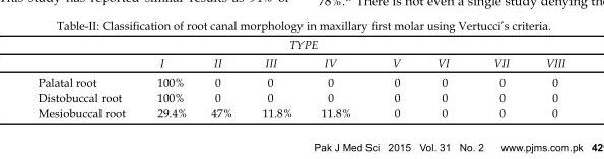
<table><thead><tr><td colspan="9">TYPE</td></tr><tr><td></td><td>I</td><td>II</td><td>III</td><td>IV</td><td>V</td><td>VI</td><td>VII</td><td>VIII</td></tr></thead><tbody><tr><td>Palatal root</td><td>100%</td><td>0</td><td>0</td><td>0</td><td>0</td><td>0</td><td>0</td><td>0</td></tr><tr><td>Distobuccal root</td><td>100%</td><td>0</td><td>0</td><td>0</td><td>0</td><td>0</td><td>0</td><td>0</td></tr><tr><td>Mesiobuccal root</td><td>29.4%</td><td>47%</td><td>11.8%</td><td>11.8%</td><td>0</td><td>0</td><td>0</td><td>0</td></tr></tbody></table>